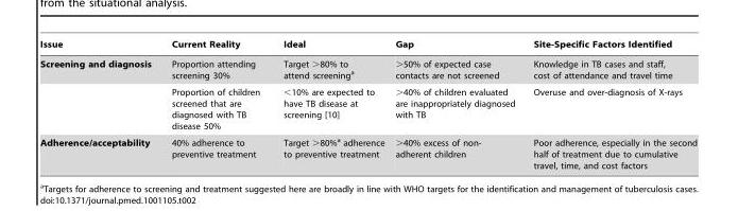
<table><thead><tr><td>Issue</td><td>Current Reality</td><td>Ideal</td><td>Gap</td><td>Site-Specific Factors Identified</td></tr></thead><tbody><tr><td rowspan="2">Screening and diagnosis</td><td>Proportion attending screening 30%</td><td>Target &gt;80% to attend screening<sup>a</sup></td><td>&gt;50% of expected case contacts are not screened</td><td>Knowledge in TB cases and staff, cost of attendance and travel time</td></tr><tr><td>Proportion of children screened that are diagnosed with TB disease 50%</td><td>&lt;10% are expected to have TB disease at screening [10]</td><td>&gt;40% of children evaluated are inappropriately diagnosed with TB</td><td>Overuse and over-diagnosis of X-rays</td></tr><tr><td>Adherence/acceptability</td><td>40% adherence to preventive treatment</td><td>Target &gt;80%<sup>a</sup> adherence to preventive treatment</td><td>&gt;40% excess of non- adherent children</td><td>Poor adherence, especially in the second half of treatment due to cumulative travel, time, and cost factors</td></tr></tbody></table>